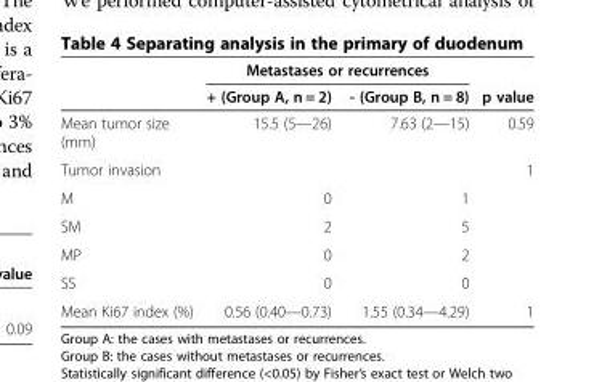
<table><thead><tr><td rowspan="2"></td><td colspan="2">Metastases or recurrences</td><td rowspan="2">p value</td></tr><tr><td>+ (Group A, n = 2)</td><td>- (Group B, n = 8)</td></tr></thead><tbody><tr><td>Mean tumor size (mm)</td><td>15.5 (5—26)</td><td>7.63 (2—15)</td><td>0.59</td></tr><tr><td>Tumor invasion</td><td></td><td></td><td>1</td></tr><tr><td>M</td><td>0</td><td>1</td><td></td></tr><tr><td>SM</td><td>2</td><td>5</td><td></td></tr><tr><td>MP</td><td>0</td><td>2</td><td></td></tr><tr><td>SS</td><td>0</td><td>0</td><td></td></tr><tr><td>Mean Ki67 index (%)</td><td>0.56 (0.40—0.73)</td><td>1.55 (0.34—4.29)</td><td>1</td></tr></tbody></table>